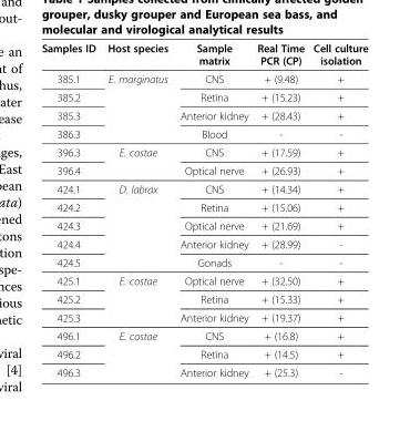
<table><thead><tr><td>Samples ID</td><td>Host species</td><td>Sample matrix</td><td>Real Time PCR (CP)</td><td>Cell culture isolation</td></tr></thead><tbody><tr><td>385.1</td><td rowspan="4">E. marginatus</td><td>CNS</td><td>+ (9.48)</td><td>+</td></tr><tr><td>385.2</td><td>Retina</td><td>+ (15.23)</td><td>+</td></tr><tr><td>385.3</td><td>Anterior kidney</td><td>+ (28.43)</td><td>+</td></tr><tr><td>386.3</td><td>Blood</td><td>-</td><td>-</td></tr><tr><td>396.3</td><td>E. costae</td><td>CNS</td><td>+ (17.59)</td><td>+</td></tr><tr><td>396.4</td><td></td><td>Optical nerve</td><td>+ (26.93)</td><td>+</td></tr><tr><td>424.1</td><td>D. labrax</td><td>CNS</td><td>+ (14.34)</td><td>+</td></tr><tr><td>424.2</td><td></td><td>Retina</td><td>+ (15.06)</td><td>+</td></tr><tr><td>424.3</td><td></td><td>Optical nerve</td><td>+ (21.69)</td><td>+</td></tr><tr><td>424.4</td><td></td><td>Anterior kidney</td><td>+ (28.99)</td><td>-</td></tr><tr><td>424.5</td><td></td><td>Gonads</td><td>-</td><td>-</td></tr><tr><td>425.1</td><td rowspan="3">E. costae</td><td>Optical nerve</td><td>+ (32.50)</td><td>+</td></tr><tr><td>425.2</td><td>Retina</td><td>+ (15.33)</td><td>+</td></tr><tr><td>425.3</td><td>Anterior kidney</td><td>+ (19.37)</td><td>+</td></tr><tr><td>496.1</td><td>E. costae</td><td>CNS</td><td>+ (16.8)</td><td>+</td></tr><tr><td>496.2</td><td></td><td>Retina</td><td>+ (14.5)</td><td>+</td></tr><tr><td>496.3</td><td></td><td>Anterior kidney</td><td>+ (25.3)</td><td>-</td></tr></tbody></table>